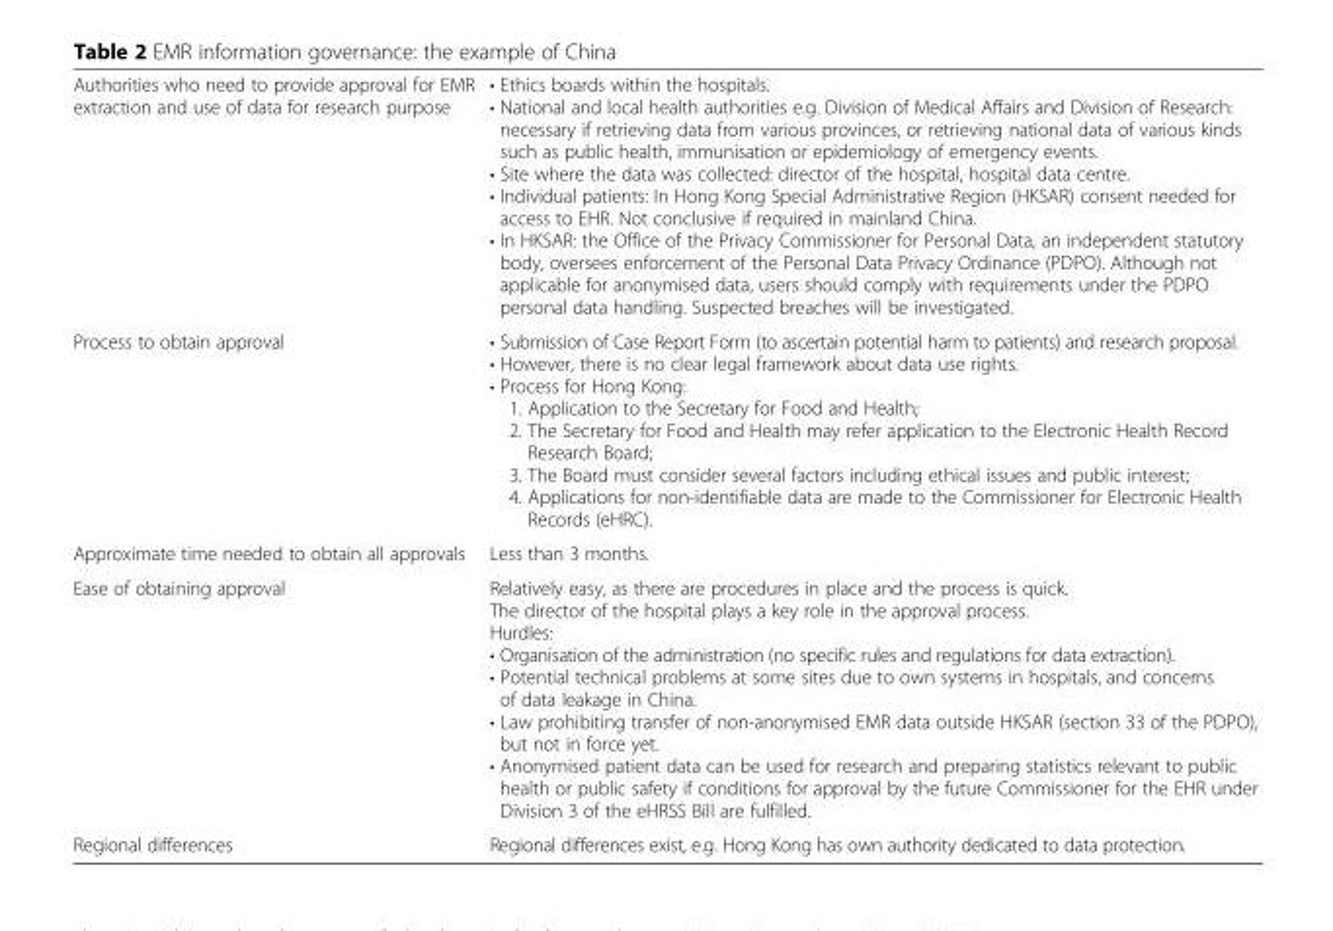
<table><tbody><tr><td>Authorities who need to provide approval for EMR extraction and use of data for research purpose</td><td>• Ethics boards within the hospitals. • National and local health authorities e.g. Division of Medical Affairs and Division of Research: necessary if retrieving data from various provinces, or retrieving national data of various kinds such as public health, immunisation or epidemiology of emergency events. • Site where the data was collected: director of the hospital, hospital data centre. • Individual patients: In Hong Kong Special Administrative Region (HKSAR) consent needed for access to EHR. Not conclusive if required in mainland China. • In HKSAR: the Office of the Privacy Commissioner for Personal Data, an independent statutory body, oversees enforcement of the Personal Data Privacy Ordinance (PDPO). Although not applicable for anonymised data, users should comply with requirements under the PDPO personal data handling. Suspected breaches will be investigated.</td></tr><tr><td>Process to obtain approval</td><td>• Submission of Case Report Form (to ascertain potential harm to patients) and research proposal. • However, there is no clear legal framework about data use rights. • Process for Hong Kong: 1. Application to the Secretary for Food and Health; 2. The Secretary for Food and Health may refer application to the Electronic Health Record Research Board; 3. The Board must consider several factors including ethical issues and public interest; 4. Applications for non-identifiable data are made to the Commissioner for Electronic Health Records (eHRC).</td></tr><tr><td>Approximate time needed to obtain all approvals</td><td>Less than 3 months.</td></tr><tr><td>Ease of obtaining approval</td><td>Relatively easy, as there are procedures in place and the process is quick. The director of the hospital plays a key role in the approval process. Hurdles: • Organisation of the administration (no specific rules and regulations for data extraction). • Potential technical problems at some sites due to own systems in hospitals, and concerns of data leakage in China. • Law prohibiting transfer of non-anonymised EMR data outside HKSAR (section 33 of the PDPO), but not in force yet. • Anonymised patient data can be used for research and preparing statistics relevant to public health or public safety if conditions for approval by the future Commissioner for the EHR under Division 3 of the eHRSS Bill are fulfilled.</td></tr><tr><td>Regional differences</td><td>Regional differences exist, e.g. Hong Kong has own authority dedicated to data protection.</td></tr></tbody></table>